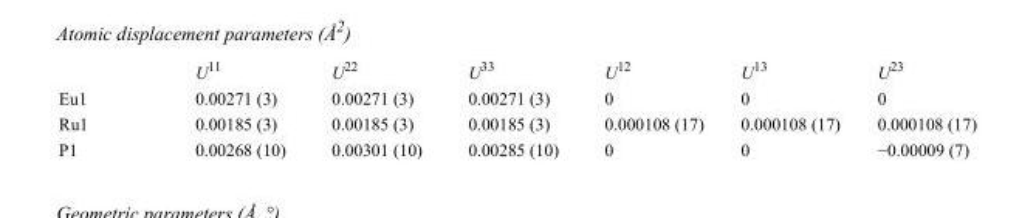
<table><thead><tr><td></td><td>U<sup>11</sup></td><td>U<sup>22</sup></td><td>U<sup>33</sup></td><td>U<sup>12</sup></td><td>U<sup>13</sup></td><td>U<sup>23</sup></td></tr></thead><tbody><tr><td>Eu1</td><td>0.00271 (3)</td><td>0.00271 (3)</td><td>0.00271 (3)</td><td>0</td><td>0</td><td>0</td></tr><tr><td>Ru1</td><td>0.00185 (3)</td><td>0.00185 (3)</td><td>0.00185 (3)</td><td>0.000108 (17)</td><td>0.000108 (17)</td><td>0.000108 (17)</td></tr><tr><td>P1</td><td>0.00268 (10)</td><td>0.00301 (10)</td><td>0.00285 (10)</td><td>0</td><td>0</td><td>−0.00009 (7)</td></tr></tbody></table>